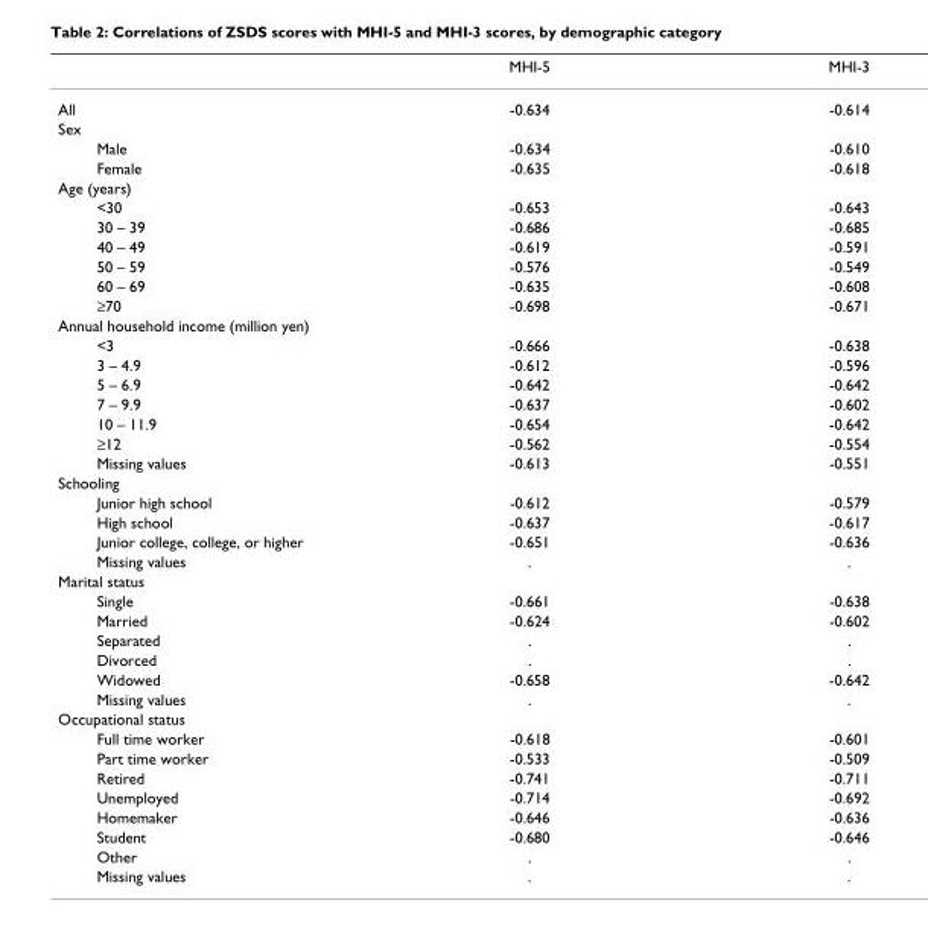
<table><thead><tr><td></td><td>MHI-5</td><td>MHI-3</td></tr></thead><tbody><tr><td>All</td><td>-0.634</td><td>-0.614</td></tr><tr><td colspan="3">Sex</td></tr><tr><td>Male</td><td>-0.634</td><td>-0.610</td></tr><tr><td>Female</td><td>-0.635</td><td>-0.618</td></tr><tr><td colspan="3">Age (years)</td></tr><tr><td>&lt;30</td><td>-0.653</td><td>-0.643</td></tr><tr><td>30 – 39</td><td>-0.686</td><td>-0.685</td></tr><tr><td>40 – 49</td><td>-0.619</td><td>-0.591</td></tr><tr><td>50 – 59</td><td>-0.576</td><td>-0.549</td></tr><tr><td>60 – 69</td><td>-0.635</td><td>-0.608</td></tr><tr><td>≥70</td><td>-0.698</td><td>-0.671</td></tr><tr><td colspan="3">Annual household income (million yen)</td></tr><tr><td>&lt;3</td><td>-0.666</td><td>-0.638</td></tr><tr><td>3 – 4.9</td><td>-0.612</td><td>-0.596</td></tr><tr><td>5 – 6.9</td><td>-0.642</td><td>-0.642</td></tr><tr><td>7 – 9.9</td><td>-0.637</td><td>-0.602</td></tr><tr><td>10 – 11.9</td><td>-0.654</td><td>-0.642</td></tr><tr><td>≥12</td><td>-0.562</td><td>-0.554</td></tr><tr><td>Missing values</td><td>-0.613</td><td>-0.551</td></tr><tr><td colspan="3">Schooling</td></tr><tr><td>Junior high school</td><td>-0.612</td><td>-0.579</td></tr><tr><td>High school</td><td>-0.637</td><td>-0.617</td></tr><tr><td>Junior college, college, or higher</td><td>-0.651</td><td>-0.636</td></tr><tr><td>Missing values</td><td>.</td><td>.</td></tr><tr><td colspan="3">Marital status</td></tr><tr><td>Single</td><td>-0.661</td><td>-0.638</td></tr><tr><td>Married</td><td>-0.624</td><td>-0.602</td></tr><tr><td>Separated</td><td>.</td><td>.</td></tr><tr><td>Divorced</td><td>.</td><td>.</td></tr><tr><td>Widowed</td><td>-0.658</td><td>-0.642</td></tr><tr><td>Missing values</td><td>.</td><td>.</td></tr><tr><td colspan="3">Occupational status</td></tr><tr><td>Full time worker</td><td>-0.618</td><td>-0.601</td></tr><tr><td>Part time worker</td><td>-0.533</td><td>-0.509</td></tr><tr><td>Retired</td><td>-0.741</td><td>-0.711</td></tr><tr><td>Unemployed</td><td>-0.714</td><td>-0.692</td></tr><tr><td>Homemaker</td><td>-0.646</td><td>-0.636</td></tr><tr><td>Student</td><td>-0.680</td><td>-0.646</td></tr><tr><td>Other</td><td>.</td><td>.</td></tr><tr><td>Missing values</td><td>.</td><td>.</td></tr></tbody></table>